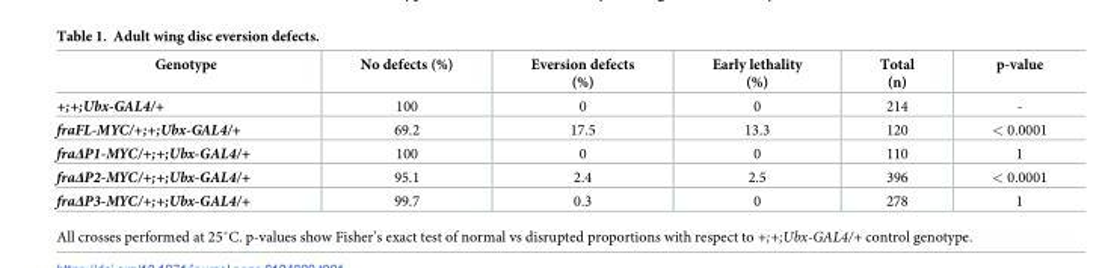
<table><thead><tr><td>Genotype</td><td>No defects (%)</td><td>Eversion defects (%)</td><td>Early lethality (%)</td><td>Total (n)</td><td>p-value</td></tr></thead><tbody><tr><td>+;+;Ubx-GAL4/+</td><td>100</td><td>0</td><td>0</td><td>214</td><td>-</td></tr><tr><td>fraFL-MYC/+;+;Ubx-GAL4/+</td><td>69.2</td><td>17.5</td><td>13.3</td><td>120</td><td>&lt; 0.0001</td></tr><tr><td>fraΔP1-MYC/+;+;Ubx-GAL4/+</td><td>100</td><td>0</td><td>0</td><td>110</td><td>1</td></tr><tr><td>fraΔP2-MYC/+;+;Ubx-GAL4/+</td><td>95.1</td><td>2.4</td><td>2.5</td><td>396</td><td>&lt; 0.0001</td></tr><tr><td>fraΔP3-MYC/+;+;Ubx-GAL4/+</td><td>99.7</td><td>0.3</td><td>0</td><td>278</td><td>1</td></tr></tbody></table>